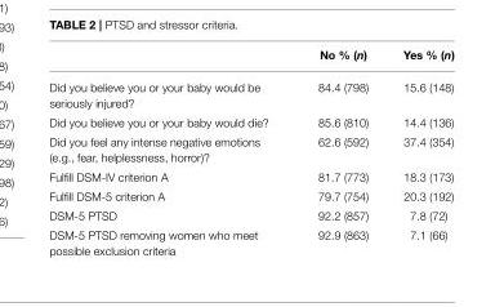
<table><thead><tr><td></td><td>No % (n)</td><td>Yes % (n)</td></tr></thead><tbody><tr><td>Did you believe you or your baby would be seriously injured?</td><td>84.4 (798)</td><td>15.6 (148)</td></tr><tr><td>Did you believe you or your baby would die?</td><td>85.6 (810)</td><td>14.4 (136)</td></tr><tr><td>Did you feel any intense negative emotions (e.g., fear, helplessness, horror)?</td><td>62.6 (592)</td><td>37.4 (354)</td></tr><tr><td>Fulfill DSM-IV criterion A</td><td>81.7 (773)</td><td>18.3 (173)</td></tr><tr><td>Fulfill DSM-5 criterion A</td><td>79.7 (754)</td><td>20.3 (192)</td></tr><tr><td>DSM-5 PTSD</td><td>92.2 (857)</td><td>7.8 (72)</td></tr><tr><td>DSM-5 PTSD removing women who meet possible exclusion criteria</td><td>92.9 (863)</td><td>7.1 (66)</td></tr></tbody></table>